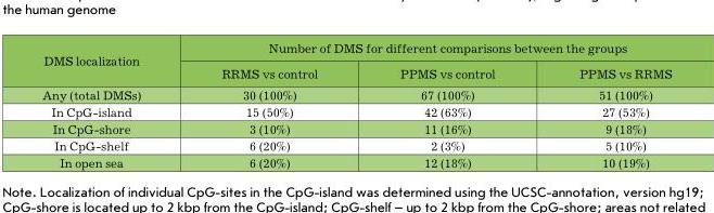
<table><thead><tr><td rowspan="2">DMS localization</td><td colspan="3">Number of DMS for different comparisons between the groups</td></tr><tr><td>RRMS vs control</td><td>PPMS vs control</td><td>PPMS vs RRMS</td></tr></thead><tbody><tr><td>Any (total DMSs)</td><td>30 (100%)</td><td>67 (100%)</td><td>51 (100%)</td></tr><tr><td>In CpG-island</td><td>15 (50%)</td><td>42 (63%)</td><td>27 (53%)</td></tr><tr><td>In CpG-shore</td><td>3 (10%)</td><td>11 (16%)</td><td>9 (18%)</td></tr><tr><td>In CpG-shelf</td><td>6 (20%)</td><td>2 (3%)</td><td>5 (10%)</td></tr><tr><td>In open sea</td><td>6 (20%)</td><td>12 (18%)</td><td>10 (19%)</td></tr></tbody></table>